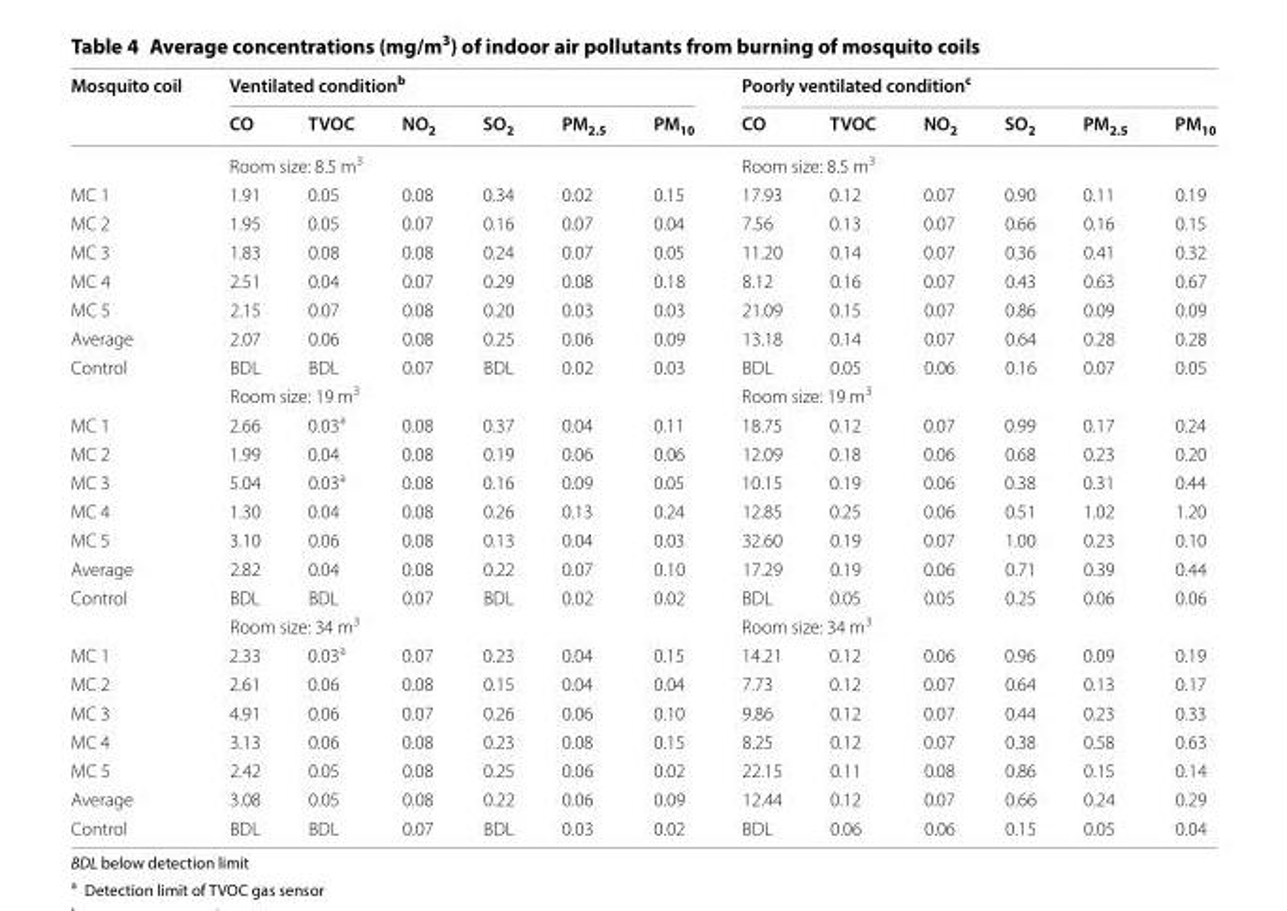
<table><thead><tr><td rowspan="2">Mosquito coil</td><td colspan="6">Ventilated condition<sup>b</sup></td><td colspan="6">Poorly ventilated condition<sup>c</sup></td></tr><tr><td>CO</td><td>TVOC</td><td>NO<sub>2</sub></td><td>SO<sub>2</sub></td><td>PM<sub>2.5</sub></td><td>PM<sub>10</sub></td><td>CO</td><td>TVOC</td><td>NO<sub>2</sub></td><td>SO<sub>2</sub></td><td>PM<sub>2.5</sub></td><td>PM<sub>10</sub></td></tr></thead><tbody><tr><td></td><td colspan="6">Room size: 8.5 m<sup>3</sup></td><td colspan="6">Room size: 8.5 m<sup>3</sup></td></tr><tr><td>MC 1</td><td>1.91</td><td>0.05</td><td>0.08</td><td>0.34</td><td>0.02</td><td>0.15</td><td>17.93</td><td>0.12</td><td>0.07</td><td>0.90</td><td>0.11</td><td>0.19</td></tr><tr><td>MC 2</td><td>1.95</td><td>0.05</td><td>0.07</td><td>0.16</td><td>0.07</td><td>0.04</td><td>7.56</td><td>0.13</td><td>0.07</td><td>0.66</td><td>0.16</td><td>0.15</td></tr><tr><td>MC 3</td><td>1.83</td><td>0.08</td><td>0.08</td><td>0.24</td><td>0.07</td><td>0.05</td><td>11.20</td><td>0.14</td><td>0.07</td><td>0.36</td><td>0.41</td><td>0.32</td></tr><tr><td>MC 4</td><td>2.51</td><td>0.04</td><td>0.07</td><td>0.29</td><td>0.08</td><td>0.18</td><td>8.12</td><td>0.16</td><td>0.07</td><td>0.43</td><td>0.63</td><td>0.67</td></tr><tr><td>MC 5</td><td>2.15</td><td>0.07</td><td>0.08</td><td>0.20</td><td>0.03</td><td>0.03</td><td>21.09</td><td>0.15</td><td>0.07</td><td>0.86</td><td>0.09</td><td>0.09</td></tr><tr><td>Average</td><td>2.07</td><td>0.06</td><td>0.08</td><td>0.25</td><td>0.06</td><td>0.09</td><td>13.18</td><td>0.14</td><td>0.07</td><td>0.64</td><td>0.28</td><td>0.28</td></tr><tr><td rowspan="2">Control</td><td>BDL</td><td>BDL</td><td>0.07</td><td>BDL</td><td>0.02</td><td>0.03</td><td>BDL</td><td>0.05</td><td>0.06</td><td>0.16</td><td>0.07</td><td>0.05</td></tr><tr><td colspan="6">Room size: 19 m<sup>3</sup></td><td colspan="6">Room size: 19 m<sup>3</sup></td></tr><tr><td>MC 1</td><td>2.66</td><td>0.03<sup>a</sup></td><td>0.08</td><td>0.37</td><td>0.04</td><td>0.11</td><td>18.75</td><td>0.12</td><td>0.07</td><td>0.99</td><td>0.17</td><td>0.24</td></tr><tr><td>MC 2</td><td>1.99</td><td>0.04</td><td>0.08</td><td>0.19</td><td>0.06</td><td>0.06</td><td>12.09</td><td>0.18</td><td>0.06</td><td>0.68</td><td>0.23</td><td>0.20</td></tr><tr><td>MC 3</td><td>5.04</td><td>0.03<sup>a</sup></td><td>0.08</td><td>0.16</td><td>0.09</td><td>0.05</td><td>10.15</td><td>0.19</td><td>0.06</td><td>0.38</td><td>0.31</td><td>0.44</td></tr><tr><td>MC 4</td><td>1.30</td><td>0.04</td><td>0.08</td><td>0.26</td><td>0.13</td><td>0.24</td><td>12.85</td><td>0.25</td><td>0.06</td><td>0.51</td><td>1.02</td><td>1.20</td></tr><tr><td>MC 5</td><td>3.10</td><td>0.06</td><td>0.08</td><td>0.13</td><td>0.04</td><td>0.03</td><td>32.60</td><td>0.19</td><td>0.07</td><td>1.00</td><td>0.23</td><td>0.10</td></tr><tr><td>Average</td><td>2.82</td><td>0.04</td><td>0.08</td><td>0.22</td><td>0.07</td><td>0.10</td><td>17.29</td><td>0.19</td><td>0.06</td><td>0.71</td><td>0.39</td><td>0.44</td></tr><tr><td rowspan="2">Control</td><td>BDL</td><td>BDL</td><td>0.07</td><td>BDL</td><td>0.02</td><td>0.02</td><td>BDL</td><td>0.05</td><td>0.05</td><td>0.25</td><td>0.06</td><td>0.06</td></tr><tr><td colspan="6">Room size: 34 m<sup>3</sup></td><td colspan="6">Room size: 34 m<sup>3</sup></td></tr><tr><td>MC 1</td><td>2.33</td><td>0.03<sup>a</sup></td><td>0.07</td><td>0.23</td><td>0.04</td><td>0.15</td><td>14.21</td><td>0.12</td><td>0.06</td><td>0.96</td><td>0.09</td><td>0.19</td></tr><tr><td>MC 2</td><td>2.61</td><td>0.06</td><td>0.08</td><td>0.15</td><td>0.04</td><td>0.04</td><td>7.73</td><td>0.12</td><td>0.07</td><td>0.64</td><td>0.13</td><td>0.17</td></tr><tr><td>MC 3</td><td>4.91</td><td>0.06</td><td>0.07</td><td>0.26</td><td>0.06</td><td>0.10</td><td>9.86</td><td>0.12</td><td>0.07</td><td>0.44</td><td>0.23</td><td>0.33</td></tr><tr><td>MC 4</td><td>3.13</td><td>0.06</td><td>0.08</td><td>0.23</td><td>0.08</td><td>0.15</td><td>8.25</td><td>0.12</td><td>0.07</td><td>0.38</td><td>0.58</td><td>0.63</td></tr><tr><td>MC 5</td><td>2.42</td><td>0.05</td><td>0.08</td><td>0.25</td><td>0.06</td><td>0.02</td><td>22.15</td><td>0.11</td><td>0.08</td><td>0.86</td><td>0.15</td><td>0.14</td></tr><tr><td>Average</td><td>3.08</td><td>0.05</td><td>0.08</td><td>0.22</td><td>0.06</td><td>0.09</td><td>12.44</td><td>0.12</td><td>0.07</td><td>0.66</td><td>0.24</td><td>0.29</td></tr><tr><td>Control</td><td>BDL</td><td>BDL</td><td>0.07</td><td>BDL</td><td>0.03</td><td>0.02</td><td>BDL</td><td>0.06</td><td>0.06</td><td>0.15</td><td>0.05</td><td>0.04</td></tr></tbody></table>